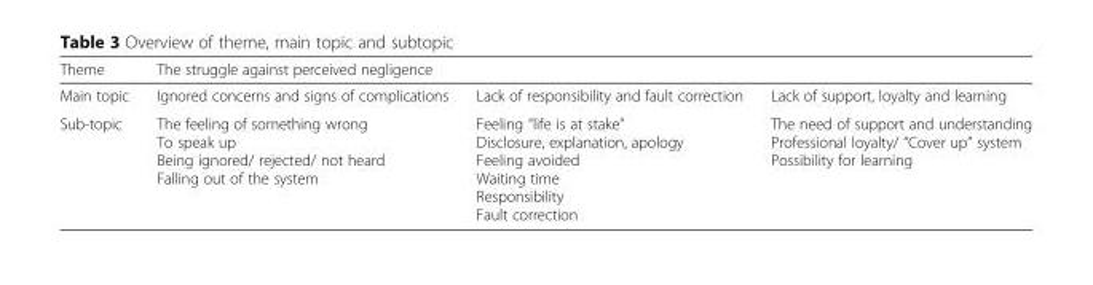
<table><thead><tr><td rowspan="2">Theme Main topic</td><td colspan="3">The struggle against perceived negligence</td></tr><tr><td>Ignored concerns and signs of complications</td><td>Lack of responsibility and fault correction</td><td>Lack of support, loyalty and learning</td></tr></thead><tbody><tr><td>Sub-topic</td><td>The feeling of something wrong To speak up Being ignored/ rejected/ not heard Falling out of the system</td><td>Feeling “life is at stake” Disclosure, explanation, apology Feeling avoided Waiting time Responsibility Fault correction</td><td>The need of support and understanding Professional loyalty/ “Cover up” system Possibility for learning</td></tr></tbody></table>